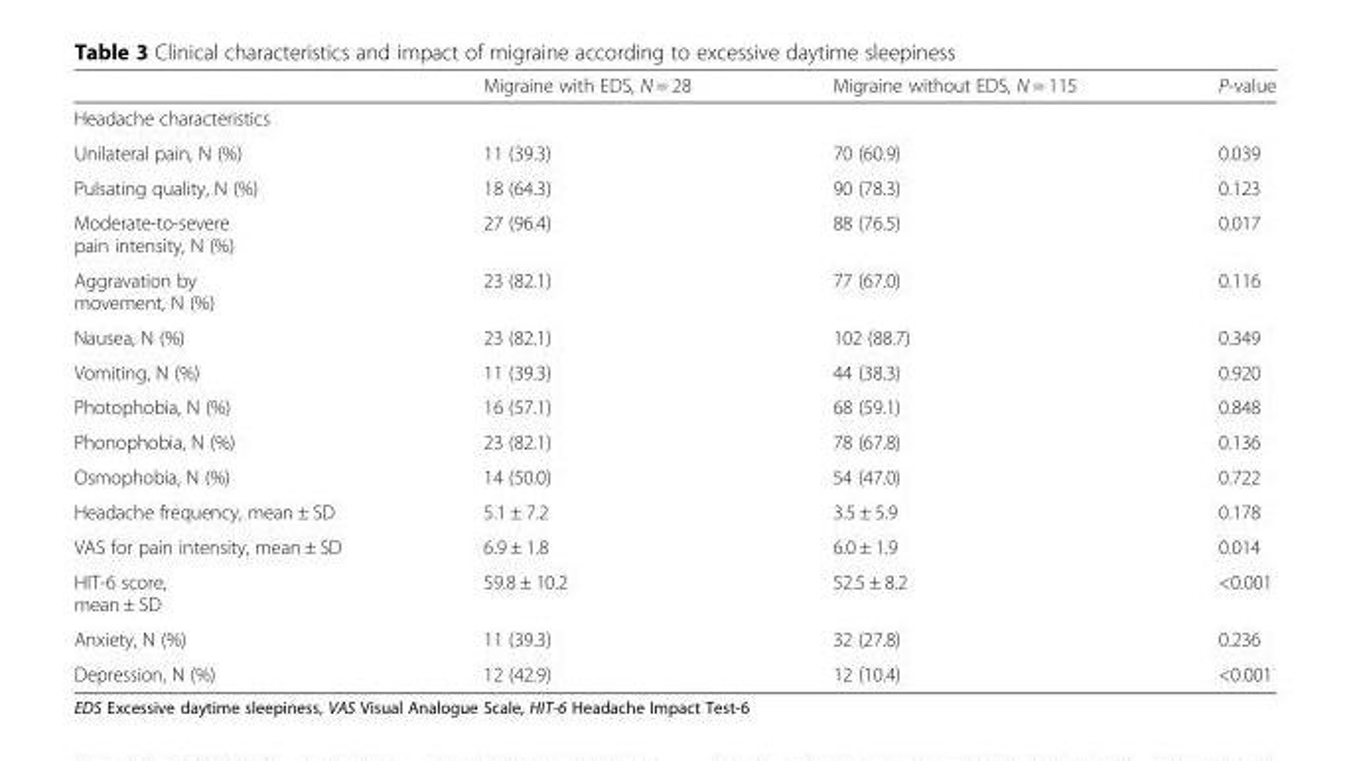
<table><thead><tr><td></td><td>Migraine with EDS, N = 28</td><td>Migraine without EDS, N = 115</td><td>P-value</td></tr></thead><tbody><tr><td colspan="4">Headache characteristics</td></tr><tr><td>Unilateral pain, N (%)</td><td>11 (39.3)</td><td>70 (60.9)</td><td>0.039</td></tr><tr><td>Pulsating quality, N (%)</td><td>18 (64.3)</td><td>90 (78.3)</td><td>0.123</td></tr><tr><td>Moderate-to-severe pain intensity, N (%)</td><td>27 (96.4)</td><td>88 (76.5)</td><td>0.017</td></tr><tr><td>Aggravation by movement, N (%)</td><td>23 (82.1)</td><td>77 (67.0)</td><td>0.116</td></tr><tr><td>Nausea, N (%)</td><td>23 (82.1)</td><td>102 (88.7)</td><td>0.349</td></tr><tr><td>Vomiting, N (%)</td><td>11 (39.3)</td><td>44 (38.3)</td><td>0.920</td></tr><tr><td>Photophobia, N (%)</td><td>16 (57.1)</td><td>68 (59.1)</td><td>0.848</td></tr><tr><td>Phonophobia, N (%)</td><td>23 (82.1)</td><td>78 (67.8)</td><td>0.136</td></tr><tr><td>Osmophobia, N (%)</td><td>14 (50.0)</td><td>54 (47.0)</td><td>0.722</td></tr><tr><td>Headache frequency, mean ± SD</td><td>5.1 ± 7.2</td><td>3.5 ± 5.9</td><td>0.178</td></tr><tr><td>VAS for pain intensity, mean ± SD</td><td>6.9 ± 1.8</td><td>6.0 ± 1.9</td><td>0.014</td></tr><tr><td>HIT-6 score, mean ± SD</td><td>59.8 ± 10.2</td><td>52.5 ± 8.2</td><td>&lt;0.001</td></tr><tr><td>Anxiety, N (%)</td><td>11 (39.3)</td><td>32 (27.8)</td><td>0.236</td></tr><tr><td>Depression, N (%)</td><td>12 (42.9)</td><td>12 (10.4)</td><td>&lt;0.001</td></tr></tbody></table>